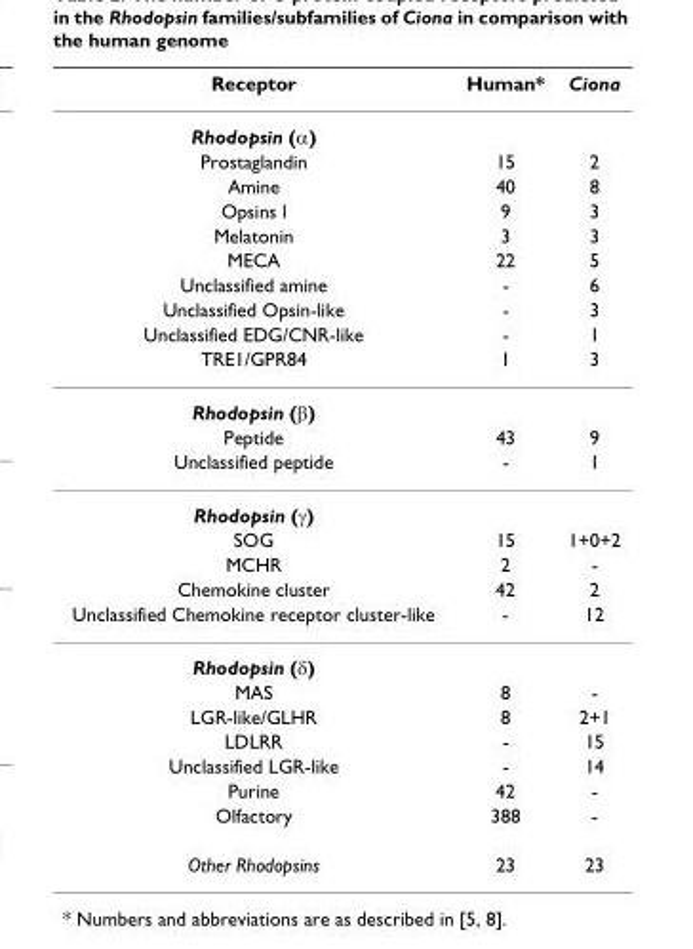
<table><thead><tr><td>Receptor</td><td>Human*</td><td>Ciona</td></tr></thead><tbody><tr><td colspan="3">Rhodopsin (α)</td></tr><tr><td>Prostaglandin</td><td>15</td><td>2</td></tr><tr><td>Amine</td><td>40</td><td>8</td></tr><tr><td>Opsins l</td><td>9</td><td>3</td></tr><tr><td>Melatonin</td><td>3</td><td>3</td></tr><tr><td>MECA</td><td>22</td><td>5</td></tr><tr><td>Unclassified amine</td><td>-</td><td>6</td></tr><tr><td>Unclassified Opsin-like</td><td>-</td><td>3</td></tr><tr><td>Unclassified EDG/CNR-like</td><td>-</td><td>1</td></tr><tr><td>TRE1/GPR84</td><td>1</td><td>3</td></tr><tr><td colspan="3">Rhodopsin (β)</td></tr><tr><td>Peptide</td><td>43</td><td>9</td></tr><tr><td>Unclassified peptide</td><td>-</td><td>1</td></tr><tr><td colspan="3">Rhodopsin (γ)</td></tr><tr><td>SOG</td><td>15</td><td>1+0+2</td></tr><tr><td>MCHR</td><td>2</td><td>-</td></tr><tr><td>Chemokine cluster</td><td>42</td><td>2</td></tr><tr><td>Unclassified Chemokine receptor cluster-like</td><td>-</td><td>12</td></tr><tr><td colspan="3">Rhodopsin (δ)</td></tr><tr><td>MAS</td><td>8</td><td>-</td></tr><tr><td>LGR-like/GLHR</td><td>8</td><td>2+1</td></tr><tr><td>LDLRR</td><td>-</td><td>15</td></tr><tr><td>Unclassified LGR-like</td><td>-</td><td>14</td></tr><tr><td>Purine</td><td>42</td><td>-</td></tr><tr><td>Olfactory</td><td>388</td><td>-</td></tr><tr><td>Other Rhodopsins</td><td>23</td><td>23</td></tr></tbody></table>